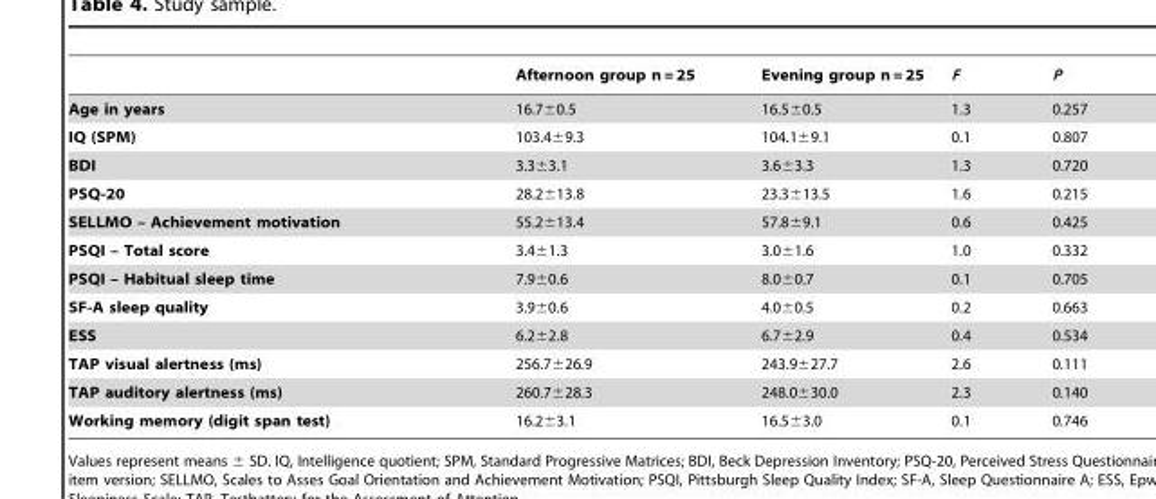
<table><thead><tr><td></td><td>Afternoon group n = 25</td><td>Evening group n = 25</td><td>F</td><td>P</td></tr></thead><tbody><tr><td>Age in years</td><td>16.7±0.5</td><td>16.5±0.5</td><td>1.3</td><td>0.257</td></tr><tr><td>IQ (SPM)</td><td>103.4±9.3</td><td>104.1±9.1</td><td>0.1</td><td>0.807</td></tr><tr><td>BDI</td><td>3.3±3.1</td><td>3.6±3.3</td><td>1.3</td><td>0.720</td></tr><tr><td>PSQ-20</td><td>28.2±13.8</td><td>23.3±13.5</td><td>1.6</td><td>0.215</td></tr><tr><td>SELLMO – Achievement motivation</td><td>55.2±13.4</td><td>57.8±9.1</td><td>0.6</td><td>0.425</td></tr><tr><td>PSQI – Total score</td><td>3.4±1.3</td><td>3.0±1.6</td><td>1.0</td><td>0.332</td></tr><tr><td>PSQI – Habitual sleep time</td><td>7.9±0.6</td><td>8.0±0.7</td><td>0.1</td><td>0.705</td></tr><tr><td>SF-A sleep quality</td><td>3.9±0.6</td><td>4.0±0.5</td><td>0.2</td><td>0.663</td></tr><tr><td>ESS</td><td>6.2±2.8</td><td>6.7±2.9</td><td>0.4</td><td>0.534</td></tr><tr><td>TAP visual alertness (ms)</td><td>256.7±26.9</td><td>243.9±27.7</td><td>2.6</td><td>0.111</td></tr><tr><td>TAP auditory alertness (ms)</td><td>260.7±28.3</td><td>248.0±30.0</td><td>2.3</td><td>0.140</td></tr><tr><td>Working memory (digit span test)</td><td>16.2±3.1</td><td>16.5±3.0</td><td>0.1</td><td>0.746</td></tr></tbody></table>